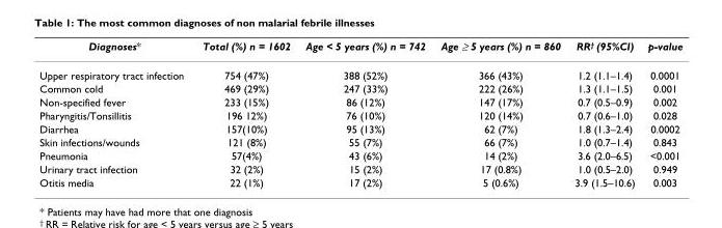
<table><thead><tr><td>Diagnoses*</td><td>Total (%) n = 1602</td><td>Age &lt; 5 years (%) n = 742</td><td>Age ≥ 5 years (%) n = 860</td><td>RR† (95%CI)</td><td>p-value</td></tr></thead><tbody><tr><td>Upper respiratory tract infection</td><td>754 (47%)</td><td>388 (52%)</td><td>366 (43%)</td><td>1.2 (1.1–1.4)</td><td>0.0001</td></tr><tr><td>Common cold</td><td>469 (29%)</td><td>247 (33%)</td><td>222 (26%)</td><td>1.3 (1.1–1.5)</td><td>0.001</td></tr><tr><td>Non-specified fever</td><td>233 (15%)</td><td>86 (12%)</td><td>147 (17%)</td><td>0.7 (0.5–0.9)</td><td>0.002</td></tr><tr><td>Pharyngitis/Tonsillitis</td><td>196 12%)</td><td>76 (10%)</td><td>120 (14%)</td><td>0.7 (0.6–1.0)</td><td>0.028</td></tr><tr><td>Diarrhea</td><td>157(10%)</td><td>95 (13%)</td><td>62 (7%)</td><td>1.8 (1.3–2.4)</td><td>0.0002</td></tr><tr><td>Skin infections/wounds</td><td>121 (8%)</td><td>55 (7%)</td><td>66 (7%)</td><td>1.0 (0.7–1.4)</td><td>0.843</td></tr><tr><td>Pneumonia</td><td>57(4%)</td><td>43 (6%)</td><td>14 (2%)</td><td>3.6 (2.0–6.5)</td><td>&lt;0.001</td></tr><tr><td>Urinary tract infection</td><td>32 (2%)</td><td>15 (2%)</td><td>17 (0.8%)</td><td>1.0 (0.5–2.0)</td><td>0.949</td></tr><tr><td>Otitis media</td><td>22 (1%)</td><td>17 (2%)</td><td>5 (0.6%)</td><td>3.9 (1.5–10.6)</td><td>0.003</td></tr></tbody></table>